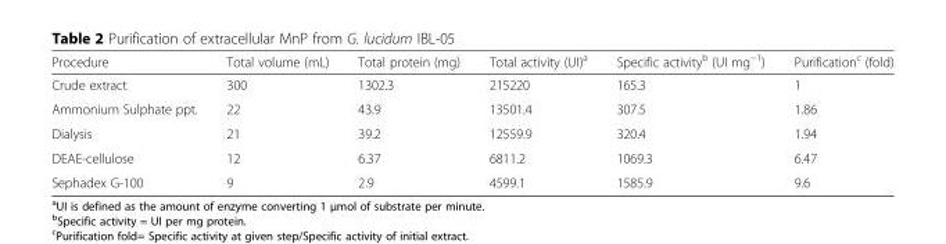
<table><thead><tr><td>Procedure</td><td>Total volume (mL)</td><td>Total protein (mg)</td><td>Total activity (UI)<sup>a</sup></td><td>Specific activity<sup>b</sup> (UI mg<sup>−1</sup>)</td><td>Purification<sup>c</sup> (fold)</td></tr></thead><tbody><tr><td>Crude extract</td><td>300</td><td>1302.3</td><td>215220</td><td>165.3</td><td>1</td></tr><tr><td>Ammonium Sulphate ppt.</td><td>22</td><td>43.9</td><td>13501.4</td><td>307.5</td><td>1.86</td></tr><tr><td>Dialysis</td><td>21</td><td>39.2</td><td>12559.9</td><td>320.4</td><td>1.94</td></tr><tr><td>DEAE-cellulose</td><td>12</td><td>6.37</td><td>6811.2</td><td>1069.3</td><td>6.47</td></tr><tr><td>Sephadex G-100</td><td>9</td><td>2.9</td><td>4599.1</td><td>1585.9</td><td>9.6</td></tr></tbody></table>